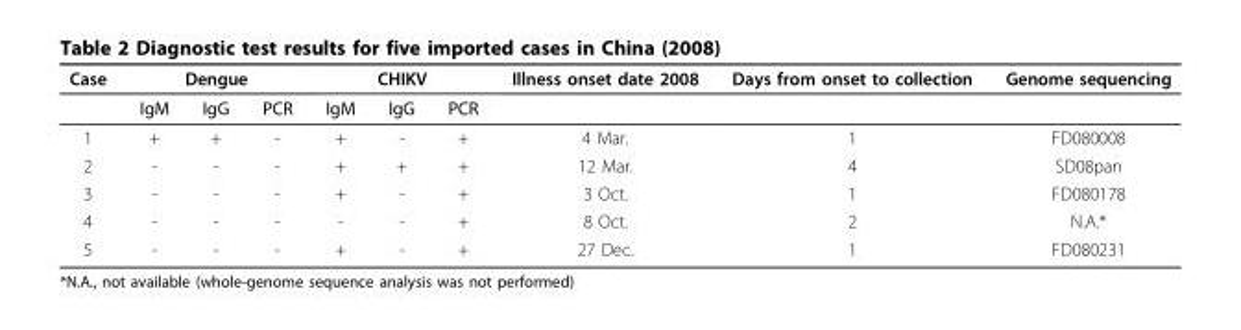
<table><thead><tr><td rowspan="2">Case</td><td colspan="3">Dengue</td><td colspan="3">CHIKV</td><td rowspan="2">Illness onset date 2008</td><td rowspan="2">Days from onset to collection</td><td rowspan="2">Genome sequencing</td></tr><tr><td>IgM</td><td>IgG</td><td>PCR</td><td>IgM</td><td>IgG</td><td>PCR</td></tr></thead><tbody><tr><td>1</td><td>+</td><td>+</td><td>-</td><td>+</td><td>-</td><td>+</td><td>4 Mar.</td><td>1</td><td>FD080008</td></tr><tr><td>2</td><td>-</td><td>-</td><td>-</td><td>+</td><td>+</td><td>+</td><td>12 Mar.</td><td>4</td><td>SD08pan</td></tr><tr><td>3</td><td>-</td><td>-</td><td>-</td><td>+</td><td>-</td><td>+</td><td>3 Oct.</td><td>1</td><td>FD080178</td></tr><tr><td>4</td><td>-</td><td>-</td><td>-</td><td>-</td><td>-</td><td>+</td><td>8 Oct.</td><td>2</td><td>N.A.*</td></tr><tr><td>5</td><td>-</td><td>-</td><td>-</td><td>+</td><td>-</td><td>+</td><td>27 Dec.</td><td>1</td><td>FD080231</td></tr></tbody></table>